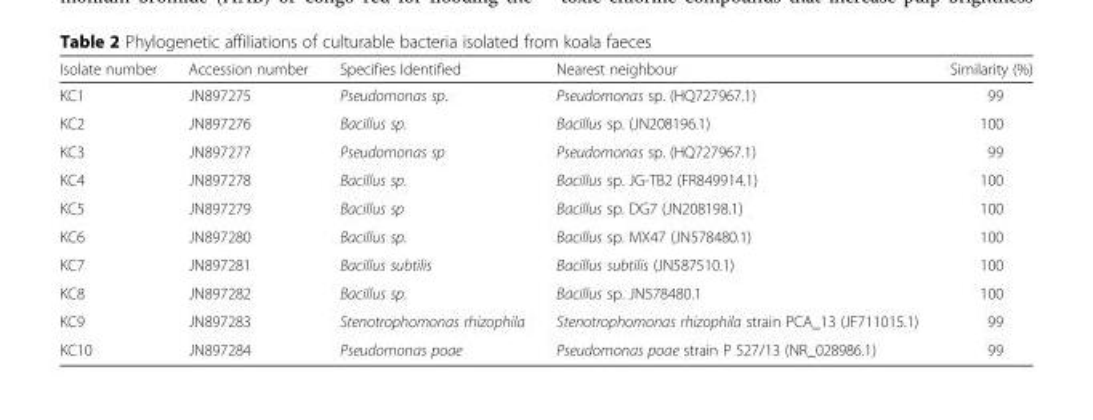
<table><thead><tr><td>Isolate number</td><td>Accession number</td><td>Specifies Identified</td><td>Nearest neighbour</td><td>Similarity (%)</td></tr></thead><tbody><tr><td>KC1</td><td>JN897275</td><td>Pseudomonas sp.</td><td>Pseudomonas sp. (HQ727967.1)</td><td>99</td></tr><tr><td>KC2</td><td>JN897276</td><td>Bacillus sp.</td><td>Bacillus sp. (JN208196.1)</td><td>100</td></tr><tr><td>KC3</td><td>JN897277</td><td>Pseudomonas sp</td><td>Pseudomonas sp. (HQ727967.1)</td><td>99</td></tr><tr><td>KC4</td><td>JN897278</td><td>Bacillus sp.</td><td>Bacillus sp. JG-TB2 (FR849914.1)</td><td>100</td></tr><tr><td>KC5</td><td>JN897279</td><td>Bacillus sp</td><td>Bacillus sp. DG7 (JN208198.1)</td><td>100</td></tr><tr><td>KC6</td><td>JN897280</td><td>Bacillus sp.</td><td>Bacillus sp. MX47 (JN578480.1)</td><td>100</td></tr><tr><td>KC7</td><td>JN897281</td><td>Bacillus subtilis</td><td>Bacillus subtilis (JN587510.1)</td><td>100</td></tr><tr><td>KC8</td><td>JN897282</td><td>Bacillus sp.</td><td>Bacillus sp. JN578480.1</td><td>100</td></tr><tr><td>KC9</td><td>JN897283</td><td>Stenotrophomonas rhizophila</td><td>Stenotrophomonas rhizophila strain PCA_13 (JF711015.1)</td><td>99</td></tr><tr><td>KC10</td><td>JN897284</td><td>Pseudomonas poae</td><td>Pseudomonas poae strain P 527/13 (NR_028986.1)</td><td>99</td></tr></tbody></table>